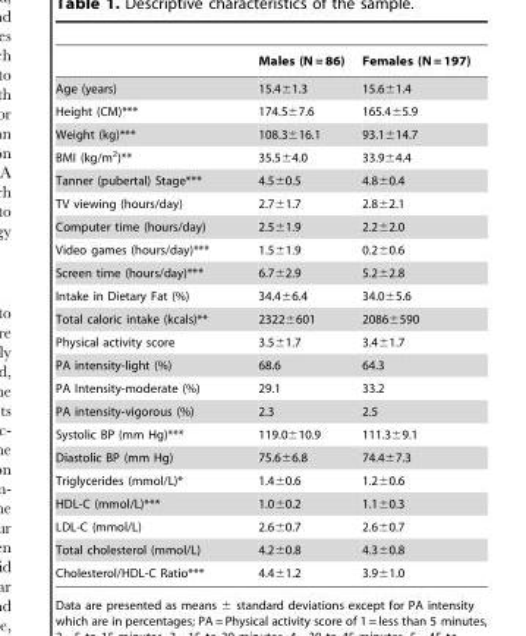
<table><thead><tr><td></td><td>Males (N = 86)</td><td>Females (N = 197)</td></tr></thead><tbody><tr><td>Age (years)</td><td>15.4±1.3</td><td>15.6±1.4</td></tr><tr><td>Height (CM)***</td><td>174.5±7.6</td><td>165.4±5.9</td></tr><tr><td>Weight (kg)***</td><td>108.3±16.1</td><td>93.1±14.7</td></tr><tr><td>BMI (kg/m<sup>2</sup>)**</td><td>35.5±4.0</td><td>33.9±4.4</td></tr><tr><td>Tanner (pubertal) Stage***</td><td>4.5±0.5</td><td>4.8±0.4</td></tr><tr><td>TV viewing (hours/day)</td><td>2.7±1.7</td><td>2.8±2.1</td></tr><tr><td>Computer time (hours/day)</td><td>2.5±1.9</td><td>2.2±2.0</td></tr><tr><td>Video games (hours/day)***</td><td>1.5±1.9</td><td>0.2±0.6</td></tr><tr><td>Screen time (hours/day)***</td><td>6.7±2.9</td><td>5.2±2.8</td></tr><tr><td>Intake in Dietary Fat (%)</td><td>34.4±6.4</td><td>34.0±5.6</td></tr><tr><td>Total caloric intake (kcals)**</td><td>2322±601</td><td>2086±590</td></tr><tr><td>Physical activity score</td><td>3.5±1.7</td><td>3.4±1.7</td></tr><tr><td>PA intensity-light (%)</td><td>68.6</td><td>64.3</td></tr><tr><td>PA Intensity-moderate (%)</td><td>29.1</td><td>33.2</td></tr><tr><td>PA intensity-vigorous (%)</td><td>2.3</td><td>2.5</td></tr><tr><td>Systolic BP (mm Hg)***</td><td>119.0±10.9</td><td>111.3±9.1</td></tr><tr><td>Diastolic BP (mm Hg)</td><td>75.6±6.8</td><td>74.4±7.3</td></tr><tr><td>Triglycerides (mmol/L)*</td><td>1.4±0.6</td><td>1.2±0.6</td></tr><tr><td>HDL-C (mmol/L)***</td><td>1.0±0.2</td><td>1.1±0.3</td></tr><tr><td>LDL-C (mmol/L)</td><td>2.6±0.7</td><td>2.6±0.7</td></tr><tr><td>Total cholesterol (mmol/L)</td><td>4.2±0.8</td><td>4.3±0.8</td></tr><tr><td>Cholesterol/HDL-C Ratio***</td><td>4.4±1.2</td><td>3.9±1.0</td></tr></tbody></table>